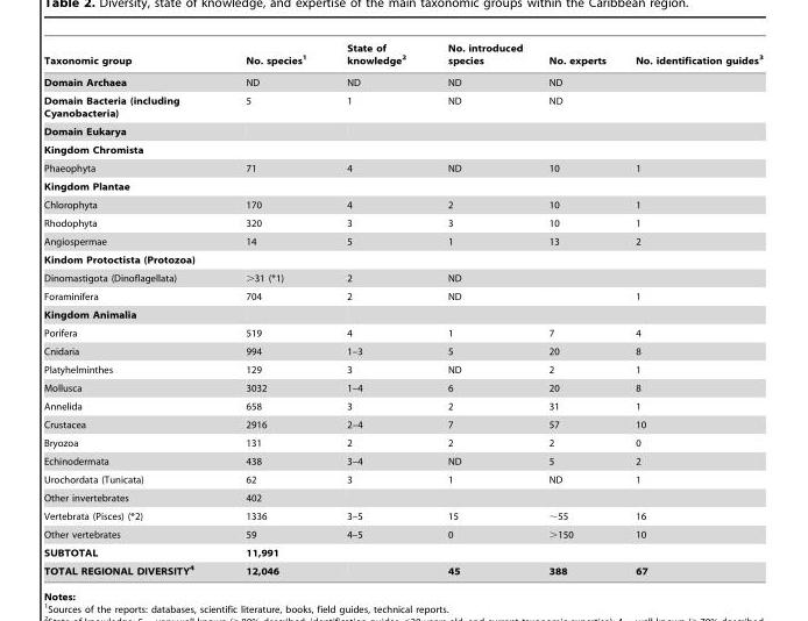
<table><thead><tr><td>Taxonomic group</td><td>No. species<sup>1</sup></td><td>State of knowledge<sup>2</sup></td><td>No. introduced species</td><td>No. experts</td><td>No. identification guides<sup>3</sup></td></tr></thead><tbody><tr><td>Domain Archaea</td><td>ND</td><td>ND</td><td>ND</td><td>ND</td><td></td></tr><tr><td>Domain Bacteria (including Cyanobacteria)</td><td>5</td><td>1</td><td>ND</td><td>ND</td><td></td></tr><tr><td colspan="6">Domain Eukarya</td></tr><tr><td colspan="6">Kingdom Chromista</td></tr><tr><td>Phaeophyta</td><td>71</td><td>4</td><td>ND</td><td>10</td><td>1</td></tr><tr><td colspan="6">Kingdom Plantae</td></tr><tr><td>Chlorophyta</td><td>170</td><td>4</td><td>2</td><td>10</td><td>1</td></tr><tr><td>Rhodophyta</td><td>320</td><td>3</td><td>3</td><td>10</td><td>1</td></tr><tr><td>Angiospermae</td><td>14</td><td>5</td><td>1</td><td>13</td><td>2</td></tr><tr><td colspan="6">Kindom Protoctista (Protozoa)</td></tr><tr><td>Dinomastigota (Dinoflagellata)</td><td>&gt;31 (*1)</td><td>2</td><td>ND</td><td></td><td></td></tr><tr><td>Foraminifera</td><td>704</td><td>2</td><td>ND</td><td></td><td>1</td></tr><tr><td colspan="6">Kingdom Animalia</td></tr><tr><td>Porifera</td><td>519</td><td>4</td><td>1</td><td>7</td><td>4</td></tr><tr><td>Cnidaria</td><td>994</td><td>1–3</td><td>5</td><td>20</td><td>8</td></tr><tr><td>Platyhelminthes</td><td>129</td><td>3</td><td>ND</td><td>2</td><td>1</td></tr><tr><td>Mollusca</td><td>3032</td><td>1–4</td><td>6</td><td>20</td><td>8</td></tr><tr><td>Annelida</td><td>658</td><td>3</td><td>2</td><td>31</td><td>1</td></tr><tr><td>Crustacea</td><td>2916</td><td>2–4</td><td>7</td><td>57</td><td>10</td></tr><tr><td>Bryozoa</td><td>131</td><td>2</td><td>2</td><td>2</td><td>0</td></tr><tr><td>Echinodermata</td><td>438</td><td>3–4</td><td>ND</td><td>5</td><td>2</td></tr><tr><td>Urochordata (Tunicata)</td><td>62</td><td>3</td><td>1</td><td>ND</td><td>1</td></tr><tr><td>Other invertebrates</td><td>402</td><td></td><td></td><td></td><td></td></tr><tr><td>Vertebrata (Pisces) (*2)</td><td>1336</td><td>3–5</td><td>15</td><td>∼55</td><td>16</td></tr><tr><td>Other vertebrates</td><td>59</td><td>4–5</td><td>0</td><td>&gt;150</td><td>10</td></tr><tr><td>SUBTOTAL</td><td>11,991</td><td></td><td></td><td></td><td></td></tr><tr><td>TOTAL REGIONAL DIVERSITY4</td><td>12,046</td><td></td><td>45</td><td>388</td><td>67</td></tr></tbody></table>